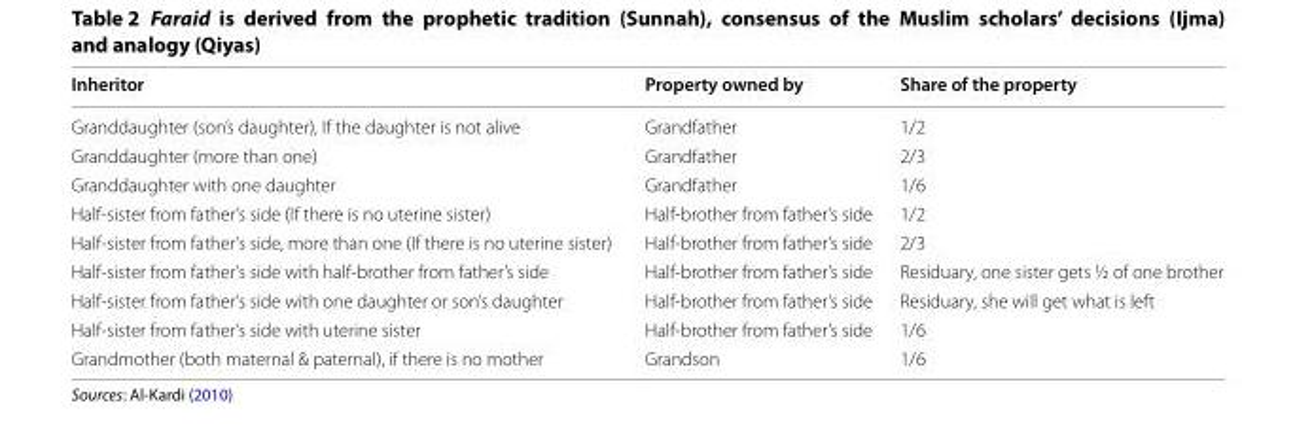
<table><thead><tr><td>Inheritor</td><td>Property owned by</td><td>Share of the property</td></tr></thead><tbody><tr><td>Granddaughter (son’s daughter), If the daughter is not alive</td><td>Grandfather</td><td>1/2</td></tr><tr><td>Granddaughter (more than one)</td><td>Grandfather</td><td>2/3</td></tr><tr><td>Granddaughter with one daughter</td><td>Grandfather</td><td>1/6</td></tr><tr><td>Half-sister from father’s side (If there is no uterine sister)</td><td>Half-brother from father’s side</td><td>1/2</td></tr><tr><td>Half-sister from father’s side, more than one (If there is no uterine sister)</td><td>Half-brother from father’s side</td><td>2/3</td></tr><tr><td>Half-sister from father’s side with half-brother from father’s side</td><td>Half-brother from father’s side</td><td>Residuary, one sister gets ½ of one brother</td></tr><tr><td>Half-sister from father’s side with one daughter or son’s daughter</td><td>Half-brother from father’s side</td><td>Residuary, she will get what is left</td></tr><tr><td>Half-sister from father’s side with uterine sister</td><td>Half-brother from father’s side</td><td>1/6</td></tr><tr><td>Grandmother (both maternal &amp; paternal), if there is no mother</td><td>Grandson</td><td>1/6</td></tr></tbody></table>